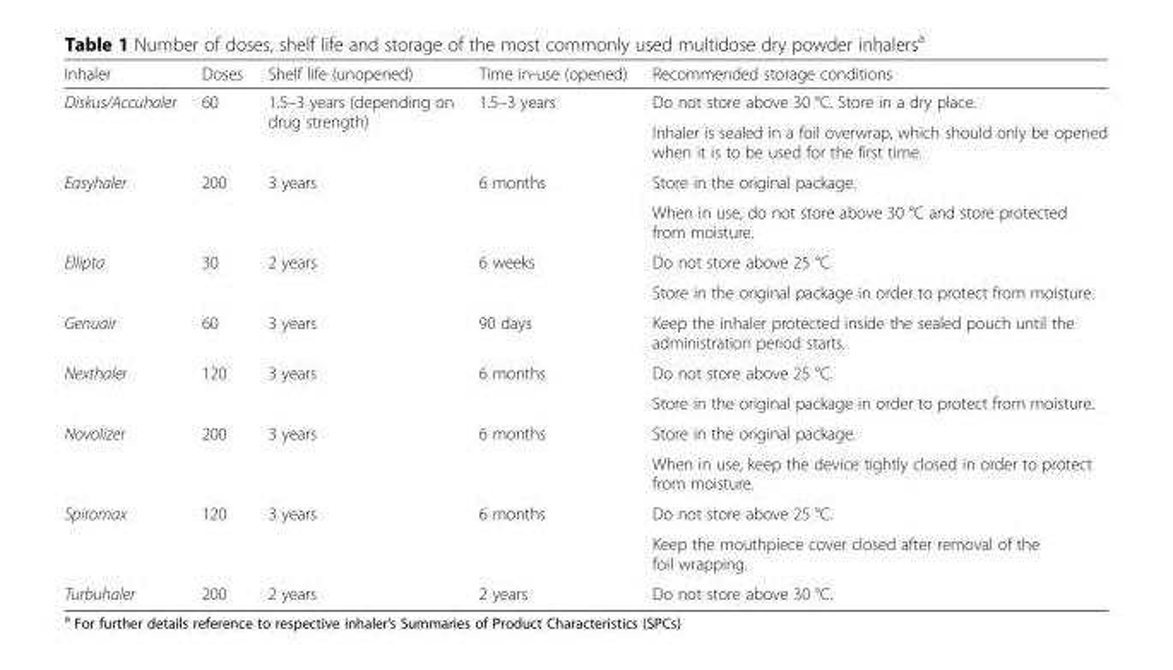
<table><thead><tr><td>Inhaler</td><td>Doses</td><td>Shelf life (unopened)</td><td>Time in-use (opened)</td><td>Recommended storage conditions</td></tr></thead><tbody><tr><td rowspan="2">Diskus/Accuhaler</td><td rowspan="2">60</td><td rowspan="2">1.5–3 years (depending on drug strength)</td><td rowspan="2">1.5–3 years</td><td>Do not store above 30 °C. Store in a dry place.</td></tr><tr><td>Inhaler is sealed in a foil overwrap, which should only be opened when it is to be used for the first time.</td></tr><tr><td rowspan="2">Easyhaler</td><td rowspan="2">200</td><td rowspan="2">3 years</td><td rowspan="2">6 months</td><td>Store in the original package.</td></tr><tr><td>When in use, do not store above 30 °C and store protected from moisture.</td></tr><tr><td rowspan="2">Ellipta</td><td rowspan="2">30</td><td rowspan="2">2 years</td><td rowspan="2">6 weeks</td><td>Do not store above 25 °C</td></tr><tr><td>Store in the original package in order to protect from moisture.</td></tr><tr><td>Genuair</td><td>60</td><td>3 years</td><td>90 days</td><td>Keep the inhaler protected inside the sealed pouch until the administration period starts.</td></tr><tr><td rowspan="2">Nexthaler</td><td rowspan="2">120</td><td rowspan="2">3 years</td><td rowspan="2">6 months</td><td>Do not store above 25 °C.</td></tr><tr><td>Store in the original package in order to protect from moisture.</td></tr><tr><td rowspan="2">Novolizer</td><td rowspan="2">200</td><td rowspan="2">3 years</td><td rowspan="2">6 months</td><td>Store in the original package.</td></tr><tr><td>When in use, keep the device tightly closed in order to protect from moisture.</td></tr><tr><td rowspan="2">Spiromax</td><td rowspan="2">120</td><td rowspan="2">3 years</td><td rowspan="2">6 months</td><td>Do not store above 25 °C.</td></tr><tr><td>Keep the mouthpiece cover closed after removal of the foil wrapping.</td></tr><tr><td>Turbuhaler</td><td>200</td><td>2 years</td><td>2 years</td><td>Do not store above 30 °C.</td></tr></tbody></table>